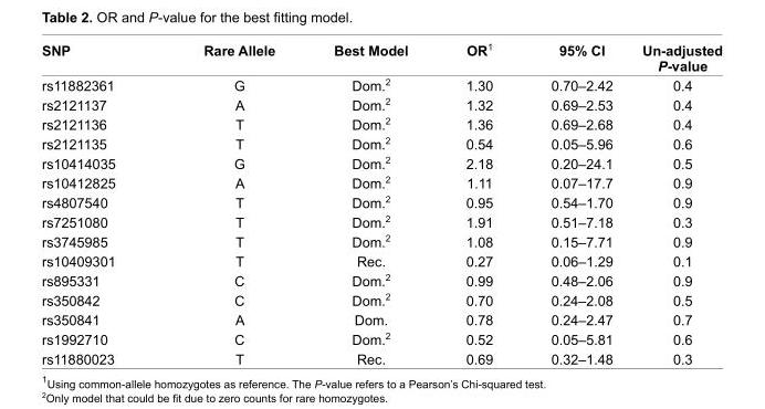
<table><thead><tr><td>SNP</td><td>Rare Allele</td><td>Best Model</td><td>OR<sup>1</sup></td><td>95% CI</td><td>Un-adjusted P-value</td></tr></thead><tbody><tr><td>rs11882361</td><td>G</td><td>Dom.<sup>2</sup></td><td>1.30</td><td>0.70–2.42</td><td>0.4</td></tr><tr><td>rs2121137</td><td>A</td><td>Dom.<sup>2</sup></td><td>1.32</td><td>0.69–2.53</td><td>0.4</td></tr><tr><td>rs2121136</td><td>T</td><td>Dom.<sup>2</sup></td><td>1.36</td><td>0.69–2.68</td><td>0.4</td></tr><tr><td>rs2121135</td><td>T</td><td>Dom.<sup>2</sup></td><td>0.54</td><td>0.05–5.96</td><td>0.6</td></tr><tr><td>rs10414035</td><td>G</td><td>Dom.<sup>2</sup></td><td>2.18</td><td>0.20–24.1</td><td>0.5</td></tr><tr><td>rs10412825</td><td>A</td><td>Dom.<sup>2</sup></td><td>1.11</td><td>0.07–17.7</td><td>0.9</td></tr><tr><td>rs4807540</td><td>T</td><td>Dom.<sup>2</sup></td><td>0.95</td><td>0.54–1.70</td><td>0.9</td></tr><tr><td>rs7251080</td><td>T</td><td>Dom.<sup>2</sup></td><td>1.91</td><td>0.51–7.18</td><td>0.3</td></tr><tr><td>rs3745985</td><td>T</td><td>Dom.<sup>2</sup></td><td>1.08</td><td>0.15–7.71</td><td>0.9</td></tr><tr><td>rs10409301</td><td>T</td><td>Rec.</td><td>0.27</td><td>0.06–1.29</td><td>0.1</td></tr><tr><td>rs895331</td><td>C</td><td>Dom.<sup>2</sup></td><td>0.99</td><td>0.48–2.06</td><td>0.9</td></tr><tr><td>rs350842</td><td>C</td><td>Dom.<sup>2</sup></td><td>0.70</td><td>0.24–2.08</td><td>0.5</td></tr><tr><td>rs350841</td><td>A</td><td>Dom.</td><td>0.78</td><td>0.24–2.47</td><td>0.7</td></tr><tr><td>rs1992710</td><td>C</td><td>Dom.<sup>2</sup></td><td>0.52</td><td>0.05–5.81</td><td>0.6</td></tr><tr><td>rs11880023</td><td>T</td><td>Rec.</td><td>0.69</td><td>0.32–1.48</td><td>0.3</td></tr></tbody></table>